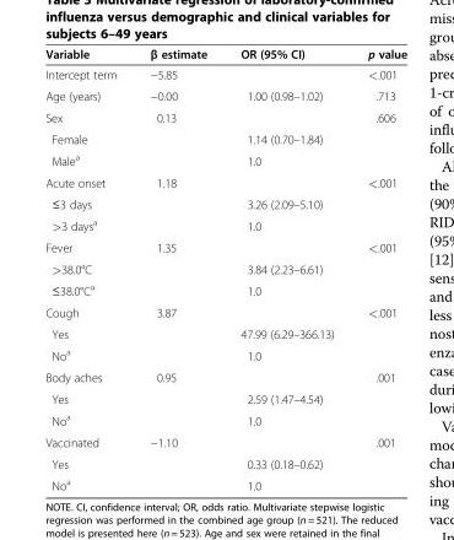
<table><thead><tr><td>Variable</td><td>β estimate</td><td>OR (95% CI)</td><td>p value</td></tr></thead><tbody><tr><td>Intercept term</td><td>−5.85</td><td></td><td>&lt;.001</td></tr><tr><td>Age (years)</td><td>−0.00</td><td>1.00 (0.98–1.02)</td><td>.713</td></tr><tr><td>Sex</td><td>0.13</td><td></td><td>.606</td></tr><tr><td>Female</td><td></td><td>1.14 (0.70–1.84)</td><td></td></tr><tr><td>Male<sup>a</sup></td><td></td><td>1.0</td><td></td></tr><tr><td>Acute onset</td><td>1.18</td><td></td><td>&lt;.001</td></tr><tr><td>≤3 days</td><td></td><td>3.26 (2.09–5.10)</td><td></td></tr><tr><td>&gt;3 days<sup>a</sup></td><td></td><td>1.0</td><td></td></tr><tr><td>Fever</td><td>1.35</td><td></td><td>&lt;.001</td></tr><tr><td>&gt;38.0°C</td><td></td><td>3.84 (2.23–6.61)</td><td></td></tr><tr><td>≤38.0°C<sup>a</sup></td><td></td><td>1.0</td><td></td></tr><tr><td>Cough</td><td>3.87</td><td></td><td>&lt;.001</td></tr><tr><td>Yes</td><td></td><td>47.99 (6.29–366.13)</td><td></td></tr><tr><td>No<sup>a</sup></td><td></td><td>1.0</td><td></td></tr><tr><td>Body aches</td><td>0.95</td><td></td><td>.001</td></tr><tr><td>Yes</td><td></td><td>2.59 (1.47–4.54)</td><td></td></tr><tr><td>No<sup>a</sup></td><td></td><td>1.0</td><td></td></tr><tr><td>Vaccinated</td><td>−1.10</td><td></td><td>.001</td></tr><tr><td>Yes</td><td></td><td>0.33 (0.18–0.62)</td><td></td></tr><tr><td>No<sup>a</sup></td><td></td><td>1.0</td><td></td></tr></tbody></table>